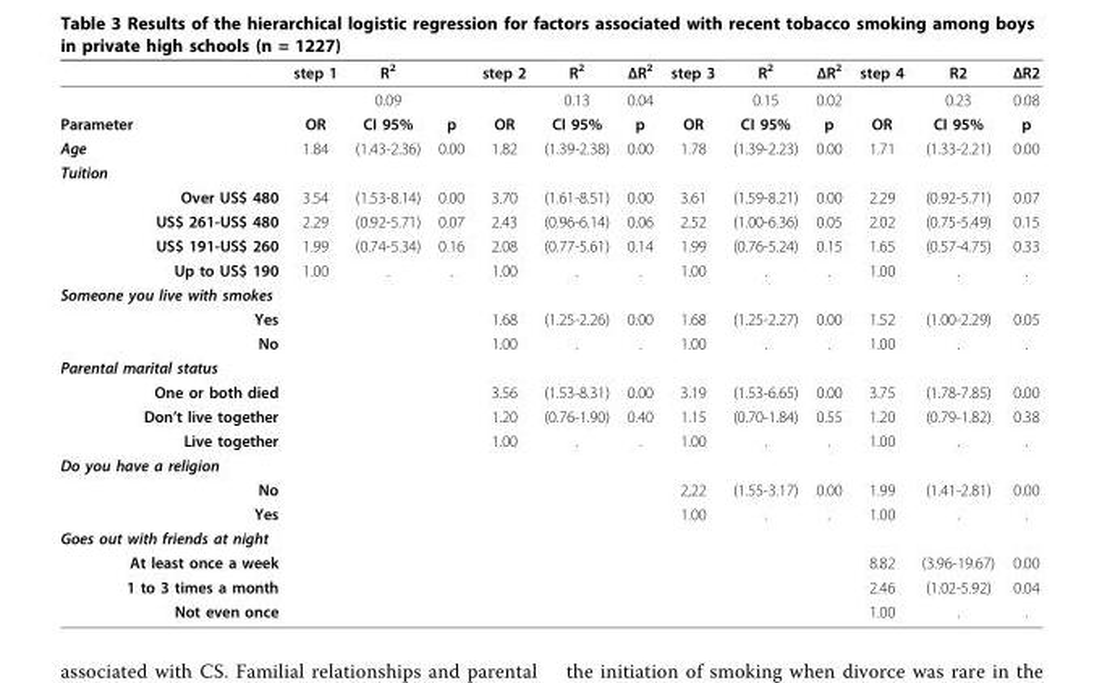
<table><thead><tr><td></td><td>step 1</td><td>R<sup>2</sup></td><td></td><td>step 2</td><td>R<sup>2</sup></td><td>ΔR<sup>2</sup></td><td>step 3</td><td>R<sup>2</sup></td><td>ΔR<sup>2</sup></td><td>step 4</td><td>R2</td><td>ΔR2</td></tr></thead><tbody><tr><td></td><td></td><td>0.09</td><td></td><td></td><td>0.13</td><td>0.04</td><td></td><td>0.15</td><td>0.02</td><td></td><td>0.23</td><td>0.08</td></tr><tr><td>Parameter</td><td>OR</td><td>CI 95%</td><td>p</td><td>OR</td><td>CI 95%</td><td>p</td><td>OR</td><td>CI 95%</td><td>p</td><td>OR</td><td>CI 95%</td><td>p</td></tr><tr><td>Age</td><td>1.84</td><td>(1.43-2.36)</td><td>0.00</td><td>1.82</td><td>(1.39-2.38)</td><td>0.00</td><td>1.78</td><td>(1.39-2.23)</td><td>0.00</td><td>1.71</td><td>(1.33-2.21)</td><td>0.00</td></tr><tr><td colspan="13">Tuition</td></tr><tr><td>Over US$ 480</td><td>3.54</td><td>(1.53-8.14)</td><td>0.00</td><td>3.70</td><td>(1.61-8.51)</td><td>0.00</td><td>3.61</td><td>(1.59-8.21)</td><td>0.00</td><td>2.29</td><td>(0.92-5.71)</td><td>0.07</td></tr><tr><td>US$ 261-US$ 480</td><td>2.29</td><td>(0.92-5.71)</td><td>0.07</td><td>2.43</td><td>(0.96-6.14)</td><td>0.06</td><td>2.52</td><td>(1.00-6.36)</td><td>0.05</td><td>2.02</td><td>(0.75-5.49)</td><td>0.15</td></tr><tr><td>US$ 191-US$ 260</td><td>1.99</td><td>(0.74-5.34)</td><td>0.16</td><td>2.08</td><td>(0.77-5.61)</td><td>0.14</td><td>1.99</td><td>(0.76-5.24)</td><td>0.15</td><td>1.65</td><td>(0.57-4.75)</td><td>0.33</td></tr><tr><td>Up to US$ 190</td><td>1.00</td><td>.</td><td>.</td><td>1.00</td><td>.</td><td>.</td><td>1.00</td><td>.</td><td>.</td><td>1.00</td><td>.</td><td>.</td></tr><tr><td colspan="13">Someone you live with smokes</td></tr><tr><td>Yes</td><td></td><td></td><td></td><td>1.68</td><td>(1.25-2.26)</td><td>0.00</td><td>1.68</td><td>(1.25-2.27)</td><td>0.00</td><td>1.52</td><td>(1.00-2.29)</td><td>0.05</td></tr><tr><td>No</td><td></td><td></td><td></td><td>1.00</td><td>.</td><td>.</td><td>1.00</td><td>.</td><td>.</td><td>1.00</td><td>.</td><td>.</td></tr><tr><td colspan="13">Parental marital status</td></tr><tr><td>One or both died</td><td></td><td></td><td></td><td>3.56</td><td>(1.53-8.31)</td><td>0.00</td><td>3.19</td><td>(1.53-6.65)</td><td>0.00</td><td>3.75</td><td>(1.78-7.85)</td><td>0.00</td></tr><tr><td>Don’t live together</td><td></td><td></td><td></td><td>1.20</td><td>(0.76-1.90)</td><td>0.40</td><td>1.15</td><td>(0.70-1.84)</td><td>0.55</td><td>1.20</td><td>(0.79-1.82)</td><td>0.38</td></tr><tr><td>Live together</td><td></td><td></td><td></td><td>1.00</td><td>.</td><td>.</td><td>1.00</td><td>.</td><td>.</td><td>1.00</td><td>.</td><td>.</td></tr><tr><td colspan="13">Do you have a religion</td></tr><tr><td>No</td><td></td><td></td><td></td><td></td><td></td><td></td><td>2,22</td><td>(1.55-3.17)</td><td>0.00</td><td>1.99</td><td>(1.41-2.81)</td><td>0.00</td></tr><tr><td>Yes</td><td></td><td></td><td></td><td></td><td></td><td></td><td>1.00</td><td>.</td><td>.</td><td>1.00</td><td>.</td><td>.</td></tr><tr><td colspan="13">Goes out with friends at night</td></tr><tr><td>At least once a week</td><td></td><td></td><td></td><td></td><td></td><td></td><td></td><td></td><td></td><td>8.82</td><td>(3.96-19.67)</td><td>0.00</td></tr><tr><td>1 to 3 times a month</td><td></td><td></td><td></td><td></td><td></td><td></td><td></td><td></td><td></td><td>2.46</td><td>(1.02-5.92)</td><td>0.04</td></tr><tr><td>Not even once</td><td></td><td></td><td></td><td></td><td></td><td></td><td></td><td></td><td></td><td>1.00</td><td>.</td><td>.</td></tr></tbody></table>